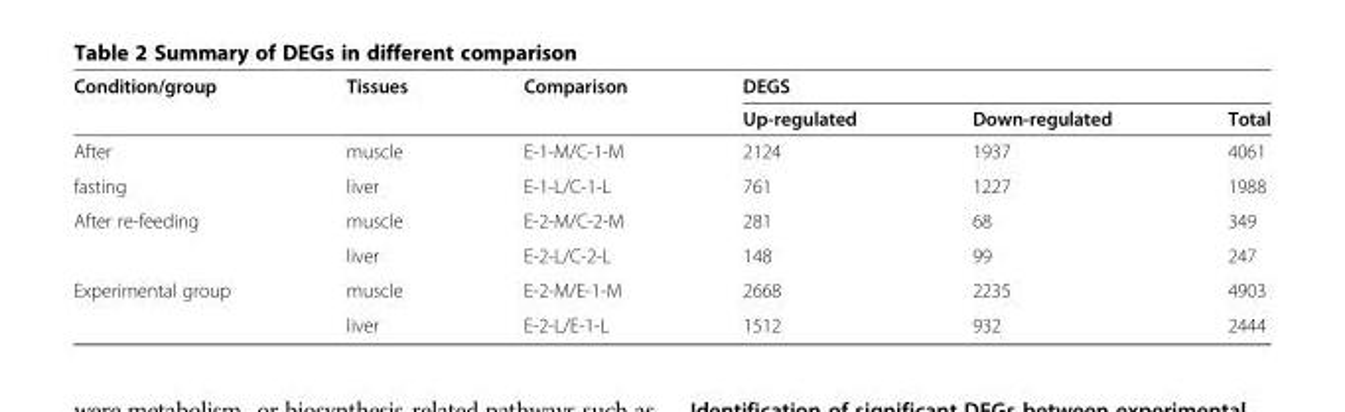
<table><thead><tr><td rowspan="2">Condition/group</td><td rowspan="2">Tissues</td><td rowspan="2">Comparison</td><td colspan="3">DEGS</td></tr><tr><td>Up-regulated</td><td>Down-regulated</td><td>Total</td></tr></thead><tbody><tr><td>After</td><td>muscle</td><td>E-1-M/C-1-M</td><td>2124</td><td>1937</td><td>4061</td></tr><tr><td>fasting</td><td>liver</td><td>E-1-L/C-1-L</td><td>761</td><td>1227</td><td>1988</td></tr><tr><td rowspan="2">After re-feeding</td><td>muscle</td><td>E-2-M/C-2-M</td><td>281</td><td>68</td><td>349</td></tr><tr><td>liver</td><td>E-2-L/C-2-L</td><td>148</td><td>99</td><td>247</td></tr><tr><td rowspan="2">Experimental group</td><td>muscle</td><td>E-2-M/E-1-M</td><td>2668</td><td>2235</td><td>4903</td></tr><tr><td>liver</td><td>E-2-L/E-1-L</td><td>1512</td><td>932</td><td>2444</td></tr></tbody></table>